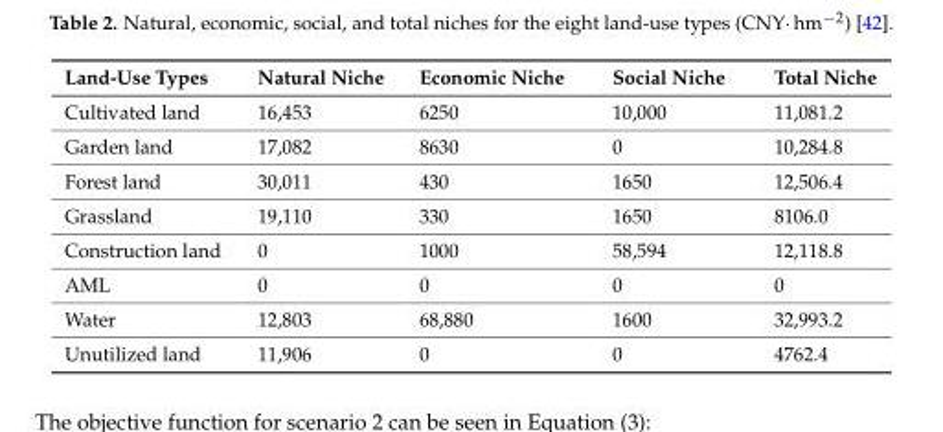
<table><thead><tr><td>Land-Use Types</td><td>Natural Niche</td><td>Economic Niche</td><td>Social Niche</td><td>Total Niche</td></tr></thead><tbody><tr><td>Cultivated land</td><td>16,453</td><td>6250</td><td>10,000</td><td>11,081.2</td></tr><tr><td>Garden land</td><td>17,082</td><td>8630</td><td>0</td><td>10,284.8</td></tr><tr><td>Forest land</td><td>30,011</td><td>430</td><td>1650</td><td>12,506.4</td></tr><tr><td>Grassland</td><td>19,110</td><td>330</td><td>1650</td><td>8106.0</td></tr><tr><td>Construction land</td><td>0</td><td>1000</td><td>58,594</td><td>12,118.8</td></tr><tr><td>AML</td><td>0</td><td>0</td><td>0</td><td>0</td></tr><tr><td>Water</td><td>12,803</td><td>68,880</td><td>1600</td><td>32,993.2</td></tr><tr><td>Unutilized land</td><td>11,906</td><td>0</td><td>0</td><td>4762.4</td></tr></tbody></table>